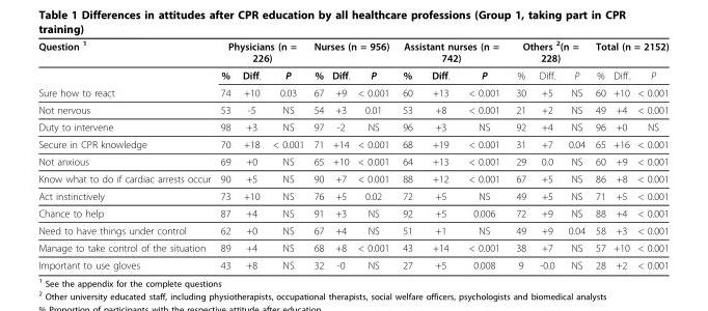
<table><thead><tr><td rowspan="2">Question <sup>1</sup></td><td colspan="3">Physicians (n = 226)</td><td colspan="3">Nurses (n = 956)</td><td colspan="3">Assistant nurses (n = 742)</td><td colspan="3">Others <sup>2</sup>(n = 228)</td><td colspan="3">Total (n = 2152)</td></tr><tr><td>%</td><td>Diff.</td><td>P</td><td>%</td><td>Diff.</td><td>P</td><td>%</td><td>Diff.</td><td>P</td><td>%</td><td>Diff.</td><td>P</td><td>%</td><td>Diff.</td><td>P</td></tr></thead><tbody><tr><td>Sure how to react</td><td>74</td><td>+10</td><td>0.03</td><td>67</td><td>+9</td><td>&lt; 0.001</td><td>60</td><td>+13</td><td>&lt; 0.001</td><td>30</td><td>+5</td><td>NS</td><td>60</td><td>+10</td><td>&lt; 0.001</td></tr><tr><td>Not nervous</td><td>53</td><td>-5</td><td>NS</td><td>54</td><td>+3</td><td>0.01</td><td>53</td><td>+8</td><td>&lt; 0.001</td><td>21</td><td>+2</td><td>NS</td><td>49</td><td>+4</td><td>&lt; 0.001</td></tr><tr><td>Duty to intervene</td><td>98</td><td>+3</td><td>NS</td><td>97</td><td>-2</td><td>NS</td><td>96</td><td>+3</td><td>NS</td><td>92</td><td>+4</td><td>NS</td><td>96</td><td>+0</td><td>NS</td></tr><tr><td>Secure in CPR knowledge</td><td>70</td><td>+18</td><td>&lt; 0.001</td><td>71</td><td>+14</td><td>&lt; 0.001</td><td>68</td><td>+19</td><td>&lt; 0.001</td><td>31</td><td>+7</td><td>0.04</td><td>65</td><td>+16</td><td>&lt; 0.001</td></tr><tr><td>Not anxious</td><td>69</td><td>+0</td><td>NS</td><td>65</td><td>+10</td><td>&lt; 0.001</td><td>64</td><td>+13</td><td>&lt; 0.001</td><td>29</td><td>0.0</td><td>NS</td><td>60</td><td>+9</td><td>&lt; 0.001</td></tr><tr><td>Know what to do if cardiac arrests occur</td><td>90</td><td>+5</td><td>NS</td><td>90</td><td>+7</td><td>&lt; 0.001</td><td>88</td><td>+12</td><td>&lt; 0.001</td><td>67</td><td>+5</td><td>NS</td><td>86</td><td>+8</td><td>&lt; 0.001</td></tr><tr><td>Act instinctively</td><td>73</td><td>+10</td><td>NS</td><td>76</td><td>+5</td><td>0.02</td><td>72</td><td>+5</td><td>NS</td><td>49</td><td>+5</td><td>NS</td><td>71</td><td>+5</td><td>&lt; 0.001</td></tr><tr><td>Chance to help</td><td>87</td><td>+4</td><td>NS</td><td>91</td><td>+3</td><td>NS</td><td>92</td><td>+5</td><td>0.006</td><td>72</td><td>+9</td><td>NS</td><td>88</td><td>+4</td><td>&lt; 0.001</td></tr><tr><td>Need to have things under control</td><td>62</td><td>+0</td><td>NS</td><td>67</td><td>+4</td><td>NS</td><td>51</td><td>+1</td><td>NS</td><td>49</td><td>+9</td><td>0.04</td><td>58</td><td>+3</td><td>&lt; 0.001</td></tr><tr><td>Manage to take control of the situation</td><td>89</td><td>+4</td><td>NS</td><td>68</td><td>+8</td><td>&lt; 0.001</td><td>43</td><td>+14</td><td>&lt; 0.001</td><td>38</td><td>+7</td><td>NS</td><td>57</td><td>+10</td><td>&lt; 0.001</td></tr><tr><td>Important to use gloves</td><td>43</td><td>+8</td><td>NS</td><td>32</td><td>-0</td><td>NS</td><td>27</td><td>+5</td><td>0.008</td><td>9</td><td>-0.0</td><td>NS</td><td>28</td><td>+2</td><td>&lt; 0.001</td></tr></tbody></table>